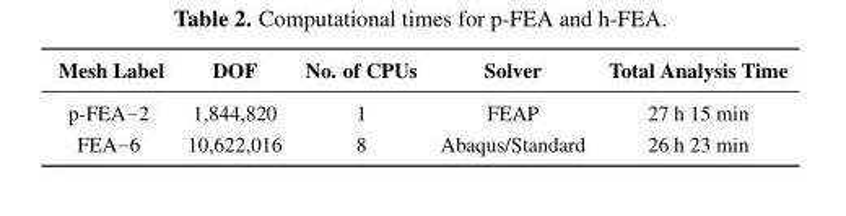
<table><thead><tr><td>Mesh Label</td><td>DOF</td><td>No. of CPUs</td><td>Solver</td><td>Total Analysis Time</td></tr></thead><tbody><tr><td>p-FEA-2</td><td>1,844,820</td><td>1</td><td>FEAP</td><td>27 h 15 min</td></tr><tr><td>FEA-6</td><td>10,622,016</td><td>8</td><td>Abaqus/Standard</td><td>26 h 23 min</td></tr></tbody></table>